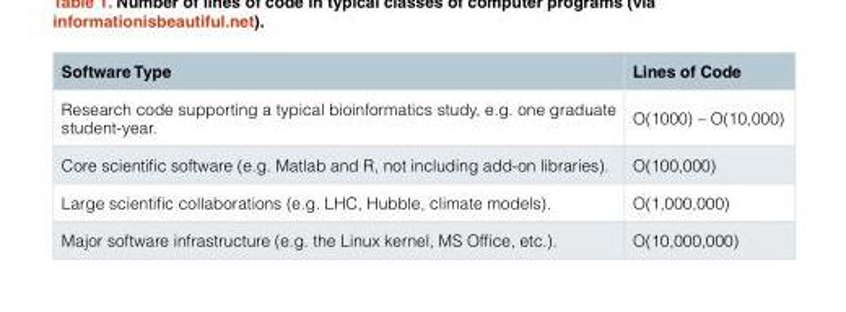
<table><thead><tr><td>Software Type</td><td>Lines of Code</td></tr></thead><tbody><tr><td>Research code supporting a typical bioinformatics study, e.g. one graduate student-year.</td><td>O(1000) – O(10,000)</td></tr><tr><td>Core scientific software (e.g. Matlab and R, not including add-on libraries).</td><td>O(100,000)</td></tr><tr><td>Large scientific collaborations (e.g. LHC, Hubble, climate models).</td><td>O(1,000,000)</td></tr><tr><td>Major software infrastructure (e.g. the Linux kernel, MS Office, etc.).</td><td>O(10,000,000)</td></tr></tbody></table>